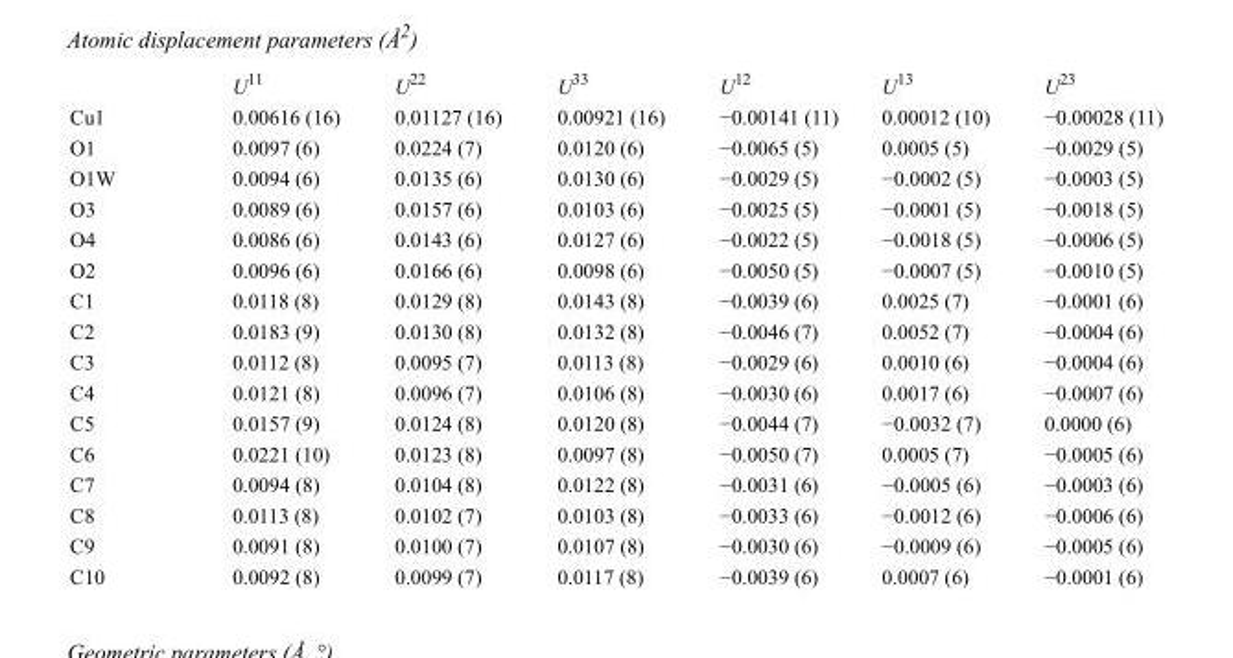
<table><thead><tr><td></td><td>U<sup>11</sup></td><td>U<sup>22</sup></td><td>U<sup>33</sup></td><td>U<sup>12</sup></td><td>U<sup>13</sup></td><td>U<sup>23</sup></td></tr></thead><tbody><tr><td>Cu1</td><td>0.00616 (16)</td><td>0.01127 (16)</td><td>0.00921 (16)</td><td>−0.00141 (11)</td><td>0.00012 (10)</td><td>−0.00028 (11)</td></tr><tr><td>O1</td><td>0.0097 (6)</td><td>0.0224 (7)</td><td>0.0120 (6)</td><td>−0.0065 (5)</td><td>0.0005 (5)</td><td>−0.0029 (5)</td></tr><tr><td>O1W</td><td>0.0094 (6)</td><td>0.0135 (6)</td><td>0.0130 (6)</td><td>−0.0029 (5)</td><td>−0.0002 (5)</td><td>−0.0003 (5)</td></tr><tr><td>O3</td><td>0.0089 (6)</td><td>0.0157 (6)</td><td>0.0103 (6)</td><td>−0.0025 (5)</td><td>−0.0001 (5)</td><td>−0.0018 (5)</td></tr><tr><td>O4</td><td>0.0086 (6)</td><td>0.0143 (6)</td><td>0.0127 (6)</td><td>−0.0022 (5)</td><td>−0.0018 (5)</td><td>−0.0006 (5)</td></tr><tr><td>O2</td><td>0.0096 (6)</td><td>0.0166 (6)</td><td>0.0098 (6)</td><td>−0.0050 (5)</td><td>−0.0007 (5)</td><td>−0.0010 (5)</td></tr><tr><td>C1</td><td>0.0118 (8)</td><td>0.0129 (8)</td><td>0.0143 (8)</td><td>−0.0039 (6)</td><td>0.0025 (7)</td><td>−0.0001 (6)</td></tr><tr><td>C2</td><td>0.0183 (9)</td><td>0.0130 (8)</td><td>0.0132 (8)</td><td>−0.0046 (7)</td><td>0.0052 (7)</td><td>−0.0004 (6)</td></tr><tr><td>C3</td><td>0.0112 (8)</td><td>0.0095 (7)</td><td>0.0113 (8)</td><td>−0.0029 (6)</td><td>0.0010 (6)</td><td>−0.0004 (6)</td></tr><tr><td>C4</td><td>0.0121 (8)</td><td>0.0096 (7)</td><td>0.0106 (8)</td><td>−0.0030 (6)</td><td>0.0017 (6)</td><td>−0.0007 (6)</td></tr><tr><td>C5</td><td>0.0157 (9)</td><td>0.0124 (8)</td><td>0.0120 (8)</td><td>−0.0044 (7)</td><td>−0.0032 (7)</td><td>0.0000 (6)</td></tr><tr><td>C6</td><td>0.0221 (10)</td><td>0.0123 (8)</td><td>0.0097 (8)</td><td>−0.0050 (7)</td><td>0.0005 (7)</td><td>−0.0005 (6)</td></tr><tr><td>C7</td><td>0.0094 (8)</td><td>0.0104 (8)</td><td>0.0122 (8)</td><td>−0.0031 (6)</td><td>−0.0005 (6)</td><td>−0.0003 (6)</td></tr><tr><td>C8</td><td>0.0113 (8)</td><td>0.0102 (7)</td><td>0.0103 (8)</td><td>−0.0033 (6)</td><td>−0.0012 (6)</td><td>−0.0006 (6)</td></tr><tr><td>C9</td><td>0.0091 (8)</td><td>0.0100 (7)</td><td>0.0107 (8)</td><td>−0.0030 (6)</td><td>−0.0009 (6)</td><td>−0.0005 (6)</td></tr><tr><td>C10</td><td>0.0092 (8)</td><td>0.0099 (7)</td><td>0.0117 (8)</td><td>−0.0039 (6)</td><td>0.0007 (6)</td><td>−0.0001 (6)</td></tr></tbody></table>